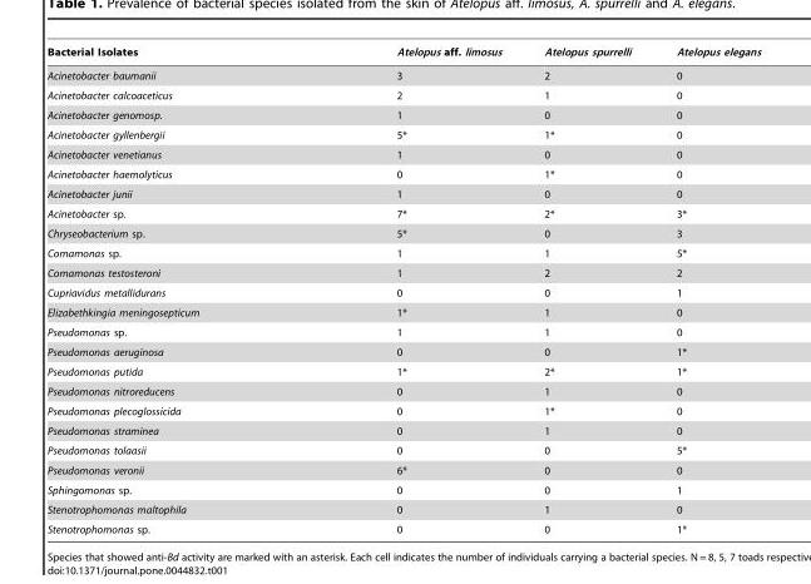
<table><thead><tr><td>Bacterial Isolates</td><td>Atelopus aff. limosus</td><td>Atelopus spurrelli</td><td>Atelopus elegans</td></tr></thead><tbody><tr><td>Acinetobacter baumanii</td><td>3</td><td>2</td><td>0</td></tr><tr><td>Acinetobacter calcoaceticus</td><td>2</td><td>1</td><td>0</td></tr><tr><td>Acinetobacter genomosp.</td><td>1</td><td>0</td><td>0</td></tr><tr><td>Acinetobacter gyllenbergii</td><td>5*</td><td>1*</td><td>0</td></tr><tr><td>Acinetobacter venetianus</td><td>1</td><td>0</td><td>0</td></tr><tr><td>Acinetobacter haemolyticus</td><td>0</td><td>1*</td><td>0</td></tr><tr><td>Acinetobacter junii</td><td>1</td><td>0</td><td>0</td></tr><tr><td>Acinetobacter sp.</td><td>7*</td><td>2*</td><td>3*</td></tr><tr><td>Chryseobacterium sp.</td><td>5*</td><td>0</td><td>3</td></tr><tr><td>Comamonas sp.</td><td>1</td><td>1</td><td>5*</td></tr><tr><td>Comamonas testosteroni</td><td>1</td><td>2</td><td>2</td></tr><tr><td>Cupriavidus metallidurans</td><td>0</td><td>0</td><td>1</td></tr><tr><td>Elizabethkingia meningosepticum</td><td>1*</td><td>1</td><td>0</td></tr><tr><td>Pseudomonas sp.</td><td>1</td><td>1</td><td>0</td></tr><tr><td>Pseudomonas aeruginosa</td><td>0</td><td>0</td><td>1*</td></tr><tr><td>Pseudomonas putida</td><td>1*</td><td>2*</td><td>1*</td></tr><tr><td>Pseudomonas nitroreducens</td><td>0</td><td>1</td><td>0</td></tr><tr><td>Pseudomonas plecoglossicida</td><td>0</td><td>1*</td><td>0</td></tr><tr><td>Pseudomonas straminea</td><td>0</td><td>1</td><td>0</td></tr><tr><td>Pseudomonas tolaasii</td><td>0</td><td>0</td><td>5*</td></tr><tr><td>Pseudomonas veronii</td><td>6*</td><td>0</td><td>0</td></tr><tr><td>Sphingomonas sp.</td><td>0</td><td>0</td><td>1</td></tr><tr><td>Stenotrophomonas maltophila</td><td>0</td><td>1</td><td>0</td></tr><tr><td>Stenotrophomonas sp.</td><td>0</td><td>0</td><td>1*</td></tr></tbody></table>